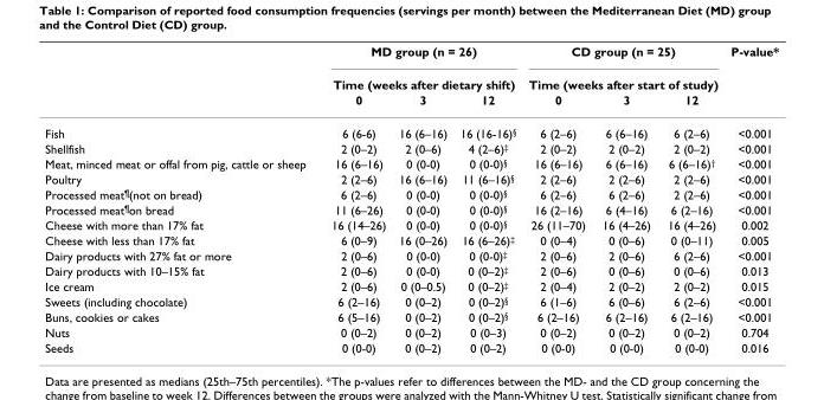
<table><thead><tr><td rowspan="3"></td><td rowspan="2" colspan="3">MD group (n = 26) Time (weeks after dietary shift)</td><td rowspan="2" colspan="3">CD group (n = 25) Time (weeks after start of study)</td><td rowspan="3">P-value*</td></tr><tr></tr><tr><td>0</td><td>3</td><td>12</td><td>0</td><td>3</td><td>12</td></tr></thead><tbody><tr><td>Fish</td><td>6 (6-6)</td><td>16 (6–16)</td><td>16 (16-16)<sup>§</sup></td><td>6 (2–6)</td><td>6 (6–16)</td><td>6 (2–6)</td><td>&lt;0.001</td></tr><tr><td>Shellfish</td><td>2 (0–2)</td><td>2 (0–6)</td><td>4 (2–6)<sup>‡</sup></td><td>2 (0–2)</td><td>2 (0–2)</td><td>2 (0–2)</td><td>&lt;0.001</td></tr><tr><td>Meat, minced meat or offal from pig, cattle or sheep</td><td>16 (6–16)</td><td>0 (0-0)</td><td>0 (0-0)<sup>§</sup></td><td>16 (6–16)</td><td>6 (6–16)</td><td>6 (6–16)<sup>†</sup></td><td>&lt;0.001</td></tr><tr><td>Poultry</td><td>2 (2–6)</td><td>16 (6–16)</td><td>11 (6–16)<sup>§</sup></td><td>2 (2–6)</td><td>2 (2–6)</td><td>2 (2–6)</td><td>&lt;0.001</td></tr><tr><td>Processed meat<sup>¶</sup>(not on bread)</td><td>6 (2–6)</td><td>0 (0-0)</td><td>0 (0-0)<sup>§</sup></td><td>6 (2–6)</td><td>6 (2–6)</td><td>2 (2–6)</td><td>&lt;0.001</td></tr><tr><td>Processed meat<sup>¶</sup>on bread</td><td>11 (6–26)</td><td>0 (0-0)</td><td>0 (0-0)<sup>§</sup></td><td>16 (2–16)</td><td>6 (4–16)</td><td>6 (2–16)</td><td>&lt;0.001</td></tr><tr><td>Cheese with more than 17% fat</td><td>16 (14–26)</td><td>0 (0-0)</td><td>0 (0-0)<sup>§</sup></td><td>26 (11–70)</td><td>16 (4–26)</td><td>16 (4–26)</td><td>0.002</td></tr><tr><td>Cheese with less than 17% fat</td><td>6 (0–9)</td><td>16 (0–26)</td><td>16 (6–26)<sup>‡</sup></td><td>0 (0–4)</td><td>0 (0–6)</td><td>0 (0–11)</td><td>0.005</td></tr><tr><td>Dairy products with 27% fat or more</td><td>2 (0–6)</td><td>0 (0-0)</td><td>0 (0-0)<sup>‡</sup></td><td>2 (0–6)</td><td>2 (0–6)</td><td>6 (2–6)</td><td>&lt;0.001</td></tr><tr><td>Dairy products with 10–15% fat</td><td>2 (0–6)</td><td>0 (0-0)</td><td>0 (0–2)<sup>‡</sup></td><td>2 (0–6)</td><td>0 (0–6)</td><td>0 (0–6)</td><td>0.013</td></tr><tr><td>Ice cream</td><td>2 (0–6)</td><td>0 (0–0.5)</td><td>0 (0–2)<sup>‡</sup></td><td>2 (0–4)</td><td>2 (0–2)</td><td>2 (0–2)</td><td>0.015</td></tr><tr><td>Sweets (including chocolate)</td><td>6 (2–16)</td><td>0 (0–2)</td><td>0 (0–2)<sup>§</sup></td><td>6 (1–6)</td><td>6 (0–6)</td><td>6 (2–6)</td><td>&lt;0.001</td></tr><tr><td>Buns, cookies or cakes</td><td>6 (5–16)</td><td>0 (0–2)</td><td>0 (0–2)<sup>§</sup></td><td>6 (2–16)</td><td>6 (2–16)</td><td>6 (2–16)</td><td>&lt;0.001</td></tr><tr><td>Nuts</td><td>0 (0–2)</td><td>0 (0–2)</td><td>0 (0–3)</td><td>0 (0–2)</td><td>0 (0–2)</td><td>0 (0–2)</td><td>0.704</td></tr><tr><td>Seeds</td><td>0 (0-0)</td><td>0 (0–2)</td><td>0 (0–2)</td><td>0 (0-0)</td><td>0 (0-0)</td><td>0 (0-0)</td><td>0.016</td></tr></tbody></table>